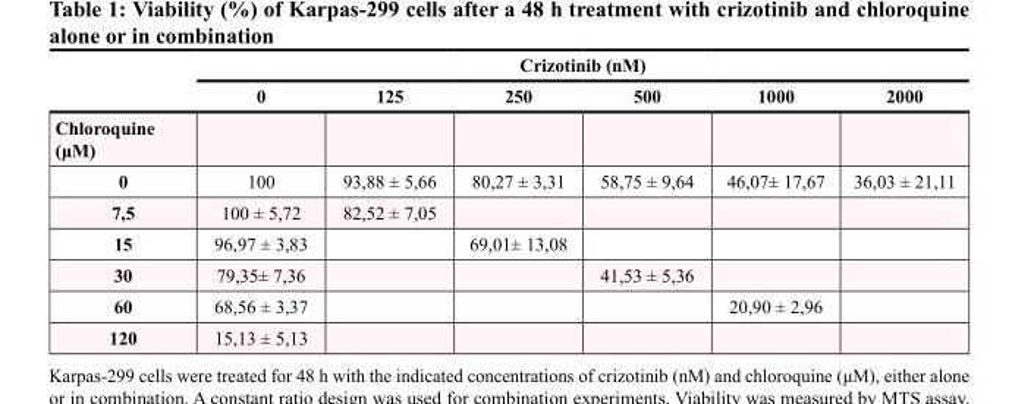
<table><thead><tr><td rowspan="2"></td><td colspan="6">Crizotinib (nM)</td></tr><tr><td>0</td><td>125</td><td>250</td><td>500</td><td>1000</td><td>2000</td></tr></thead><tbody><tr><td colspan="7">Chloroquine (μM)</td></tr><tr><td>0</td><td>100</td><td>93,88 ± 5,66</td><td>80,27 ± 3,31</td><td>58,75 ± 9,64</td><td>46,07± 17,67</td><td>36,03 ± 21,11</td></tr><tr><td>7,5</td><td>100 ± 5,72</td><td>82,52 ± 7,05</td><td></td><td></td><td></td><td></td></tr><tr><td>15</td><td>96,97 ± 3,83</td><td></td><td>69,01± 13,08</td><td></td><td></td><td></td></tr><tr><td>30</td><td>79,35± 7,36</td><td></td><td></td><td>41,53 ± 5,36</td><td></td><td></td></tr><tr><td>60</td><td>68,56 ± 3,37</td><td></td><td></td><td></td><td>20,90 ± 2,96</td><td></td></tr><tr><td>120</td><td>15,13 ± 5,13</td><td></td><td></td><td></td><td></td><td></td></tr></tbody></table>